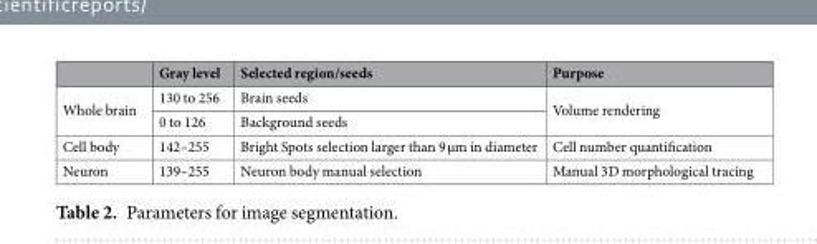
<table><thead><tr><td></td><td>Gray level</td><td>Selected region/seeds</td><td>Purpose</td></tr></thead><tbody><tr><td rowspan="2">Whole brain</td><td>130 to 256</td><td>Brain seeds</td><td rowspan="2">Volume rendering</td></tr><tr><td>0 to 126</td><td>Background seeds</td></tr><tr><td>Cell body</td><td>142–255</td><td>Bright Spots selection larger than 9 µm in diameter</td><td>Cell number quantification</td></tr><tr><td>Neuron</td><td>139–255</td><td>Neuron body manual selection</td><td>Manual 3D morphological tracing</td></tr></tbody></table>